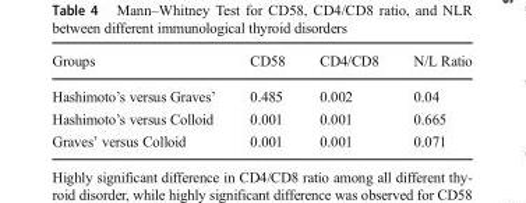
<table><thead><tr><td>Groups</td><td>CD58</td><td>CD4/CD8</td><td>N/L Ratio</td></tr></thead><tbody><tr><td>Hashimoto’s versus Graves’</td><td>0.485</td><td>0.002</td><td>0.04</td></tr><tr><td>Hashimoto’s versus Colloid</td><td>0.001</td><td>0.001</td><td>0.665</td></tr><tr><td>Graves’ versus Colloid</td><td>0.001</td><td>0.001</td><td>0.071</td></tr></tbody></table>